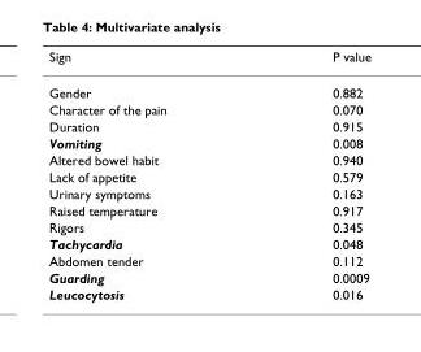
<table><thead><tr><td>Sign</td><td>P value</td></tr></thead><tbody><tr><td>Gender</td><td>0.882</td></tr><tr><td>Character of the pain</td><td>0.070</td></tr><tr><td>Duration</td><td>0.915</td></tr><tr><td>Vomiting</td><td>0.008</td></tr><tr><td>Altered bowel habit</td><td>0.940</td></tr><tr><td>Lack of appetite</td><td>0.579</td></tr><tr><td>Urinary symptoms</td><td>0.163</td></tr><tr><td>Raised temperature</td><td>0.917</td></tr><tr><td>Rigors</td><td>0.345</td></tr><tr><td>Tachycardia</td><td>0.048</td></tr><tr><td>Abdomen tender</td><td>0.112</td></tr><tr><td>Guarding</td><td>0.0009</td></tr><tr><td>Leucocytosis</td><td>0.016</td></tr></tbody></table>